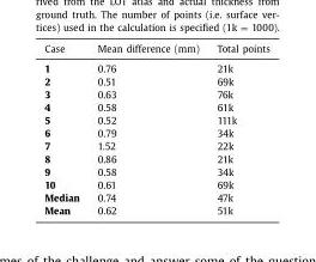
<table><thead><tr><td>Case</td><td>Mean difference (mm)</td><td>Total points</td></tr></thead><tbody><tr><td>1</td><td>0.76</td><td>21k</td></tr><tr><td>2</td><td>0.51</td><td>69k</td></tr><tr><td>3</td><td>0.63</td><td>76k</td></tr><tr><td>4</td><td>0.58</td><td>61k</td></tr><tr><td>5</td><td>0.52</td><td>111k</td></tr><tr><td>6</td><td>0.79</td><td>34k</td></tr><tr><td>7</td><td>1.52</td><td>22k</td></tr><tr><td>8</td><td>0.86</td><td>21k</td></tr><tr><td>9</td><td>0.58</td><td>34k</td></tr><tr><td>10</td><td>0.61</td><td>69k</td></tr><tr><td>Median</td><td>0.74</td><td>47k</td></tr><tr><td>Mean</td><td>0.62</td><td>51k</td></tr></tbody></table>